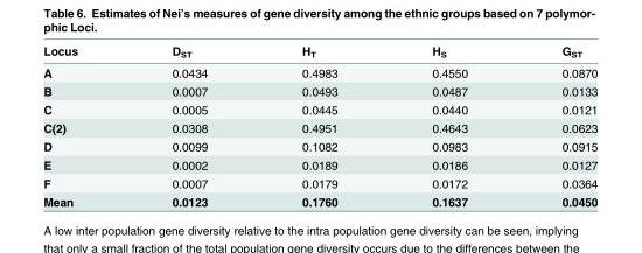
<table><thead><tr><td>Locus</td><td>D<sub>ST</sub></td><td>H<sub>T</sub></td><td>H<sub>S</sub></td><td>G<sub>ST</sub></td></tr></thead><tbody><tr><td>A</td><td>0.0434</td><td>0.4983</td><td>0.4550</td><td>0.0870</td></tr><tr><td>B</td><td>0.0007</td><td>0.0493</td><td>0.0487</td><td>0.0133</td></tr><tr><td>C</td><td>0.0005</td><td>0.0445</td><td>0.0440</td><td>0.0121</td></tr><tr><td>C(2)</td><td>0.0308</td><td>0.4951</td><td>0.4643</td><td>0.0623</td></tr><tr><td>D</td><td>0.0099</td><td>0.1082</td><td>0.0983</td><td>0.0915</td></tr><tr><td>E</td><td>0.0002</td><td>0.0189</td><td>0.0186</td><td>0.0127</td></tr><tr><td>F</td><td>0.0007</td><td>0.0179</td><td>0.0172</td><td>0.0364</td></tr><tr><td>Mean</td><td>0.0123</td><td>0.1760</td><td>0.1637</td><td>0.0450</td></tr></tbody></table>